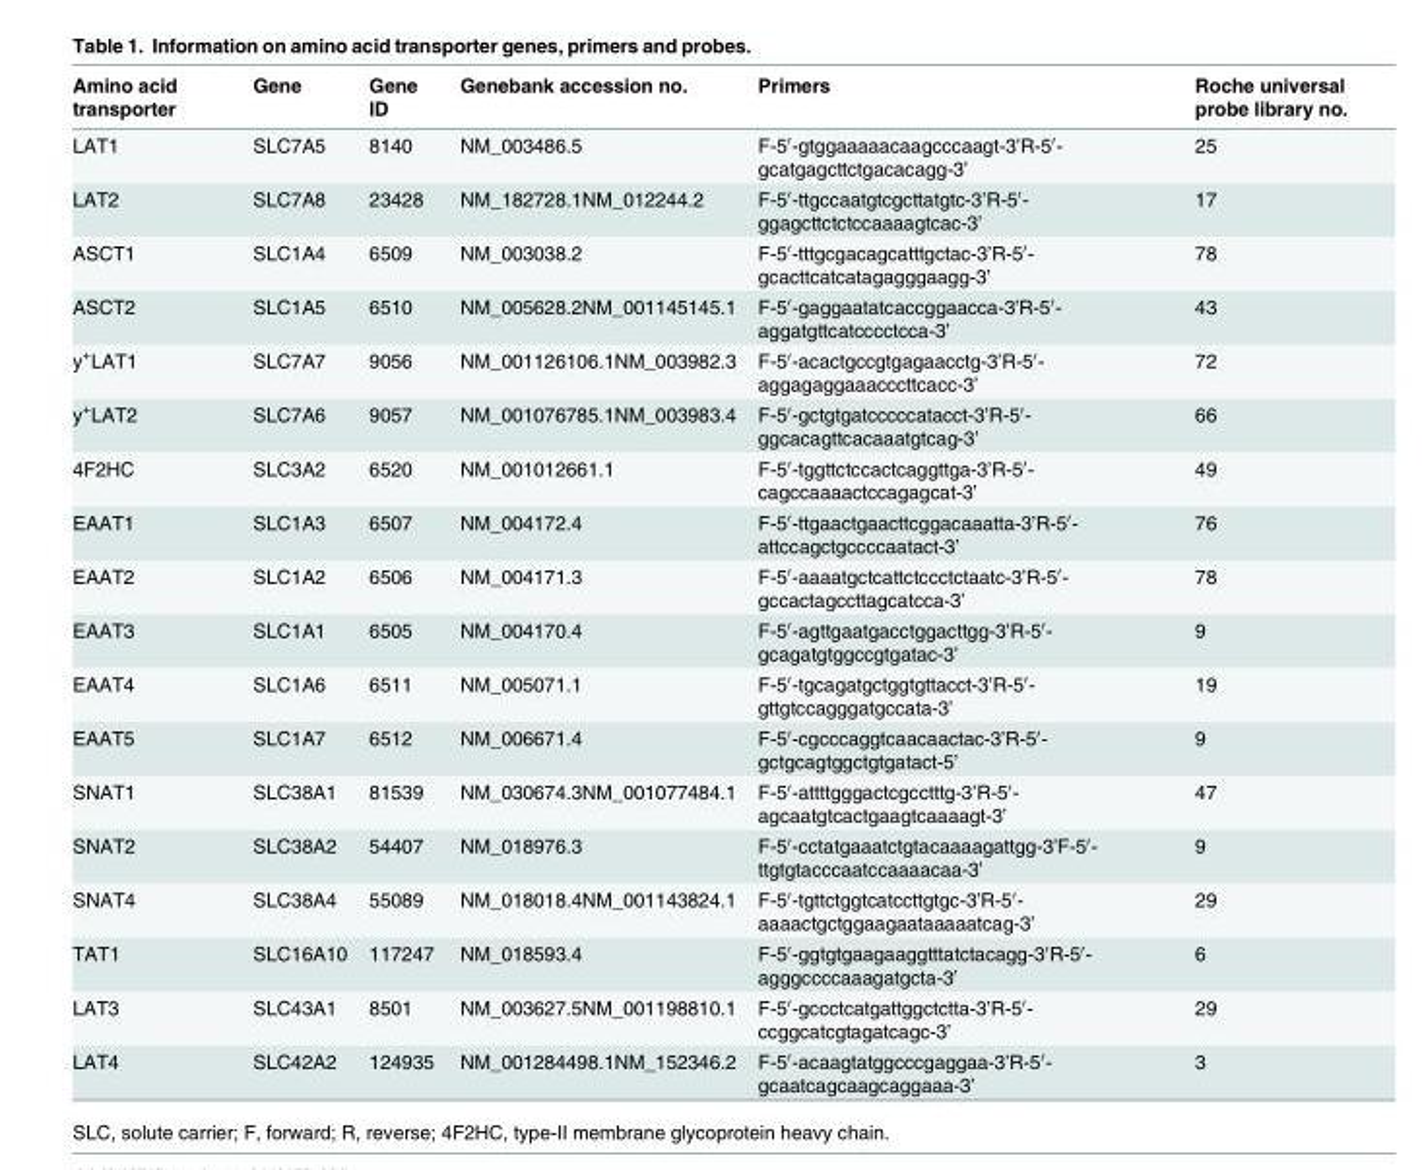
<table><thead><tr><td>Amino acid transporter</td><td>Gene</td><td>Gene ID</td><td>Genebank accession no.</td><td>Primers</td><td>Roche universal probe library no.</td></tr></thead><tbody><tr><td>LAT1</td><td>SLC7A5</td><td>8140</td><td>NM_003486.5</td><td>F-5′-gtggaaaaacaagcccaagt-3’R-5′- gcatgagcttctgacacagg-3’</td><td>25</td></tr><tr><td>LAT2</td><td>SLC7A8</td><td>23428</td><td>NM_182728.1NM_012244.2</td><td>F-5′-ttgccaatgtcgcttatgtc-3’R-5′- ggagcttctctccaaaagtcac-3’</td><td>17</td></tr><tr><td>ASCT1</td><td>SLC1A4</td><td>6509</td><td>NM_003038.2</td><td>F-5′-tttgcgacagcatttgctac-3’R-5′- gcacttcatcatagagggaagg-3’</td><td>78</td></tr><tr><td>ASCT2</td><td>SLC1A5</td><td>6510</td><td>NM_005628.2NM_001145145.1</td><td>F-5′-gaggaatatcaccggaacca-3’R-5′- aggatgttcatcccctcca-3’</td><td>43</td></tr><tr><td>y<sup>+</sup>LAT1</td><td>SLC7A7</td><td>9056</td><td>NM_001126106.1NM_003982.3</td><td>F-5′-acactgccgtgagaacctg-3’R-5′- aggagaggaaacccttcacc-3’</td><td>72</td></tr><tr><td>y<sup>+</sup>LAT2</td><td>SLC7A6</td><td>9057</td><td>NM_001076785.1NM_003983.4</td><td>F-5′-gctgtgatcccccatacct-3’R-5′- ggcacagttcacaaatgtcag-3’</td><td>66</td></tr><tr><td>4F2HC</td><td>SLC3A2</td><td>6520</td><td>NM_001012661.1</td><td>F-5′-tggttctccactcaggttga-3’R-5′- cagccaaaactccagagcat-3’</td><td>49</td></tr><tr><td>EAAT1</td><td>SLC1A3</td><td>6507</td><td>NM_004172.4</td><td>F-5′-ttgaactgaacttcggacaaatta-3’R-5′- attccagctgccccaatact-3’</td><td>76</td></tr><tr><td>EAAT2</td><td>SLC1A2</td><td>6506</td><td>NM_004171.3</td><td>F-5′-aaaatgctcattctccctctaatc-3’R-5′- gccactagccttagcatcca-3’</td><td>78</td></tr><tr><td>EAAT3</td><td>SLC1A1</td><td>6505</td><td>NM_004170.4</td><td>F-5′-agttgaatgacctggacttgg-3’R-5′- gcagatgtggccgtgatac-3’</td><td>9</td></tr><tr><td>EAAT4</td><td>SLC1A6</td><td>6511</td><td>NM_005071.1</td><td>F-5′-tgcagatgctggtgttacct-3’R-5′- gttgtccagggatgccata-3’</td><td>19</td></tr><tr><td>EAAT5</td><td>SLC1A7</td><td>6512</td><td>NM_006671.4</td><td>F-5′-cgcccaggtcaacaactac-3’R-5′- gctgcagtggctgtgatact-5’</td><td>9</td></tr><tr><td>SNAT1</td><td>SLC38A1</td><td>81539</td><td>NM_030674.3NM_001077484.1</td><td>F-5′-attttgggactcgcctttg-3’R-5′- agcaatgtcactgaagtcaaaagt-3’</td><td>47</td></tr><tr><td>SNAT2</td><td>SLC38A2</td><td>54407</td><td>NM_018976.3</td><td>F-5′-cctatgaaatctgtacaaaagattgg-3’F-5′- ttgtgtacccaatccaaaacaa-3’</td><td>9</td></tr><tr><td>SNAT4</td><td>SLC38A4</td><td>55089</td><td>NM_018018.4NM_001143824.1</td><td>F-5′-tgttctggtcatccttgtgc-3’R-5′- aaaactgctggaagaataaaaatcag-3’</td><td>29</td></tr><tr><td>TAT1</td><td>SLC16A10</td><td>117247</td><td>NM_018593.4</td><td>F-5′-ggtgtgaagaaggtttatctacagg-3′R-5′- agggccccaaagatgcta-3′</td><td>6</td></tr><tr><td>LAT3</td><td>SLC43A1</td><td>8501</td><td>NM_003627.5NM_001198810.1</td><td>F-5′-gccctcatgattggctctta-3’R-5′- ccggcatcgtagatcagc-3’</td><td>29</td></tr><tr><td>LAT4</td><td>SLC42A2</td><td>124935</td><td>NM_001284498.1NM_152346.2</td><td>F-5′-acaagtatggcccgaggaa-3’R-5′- gcaatcagcaagcaggaaa-3’</td><td>3</td></tr></tbody></table>